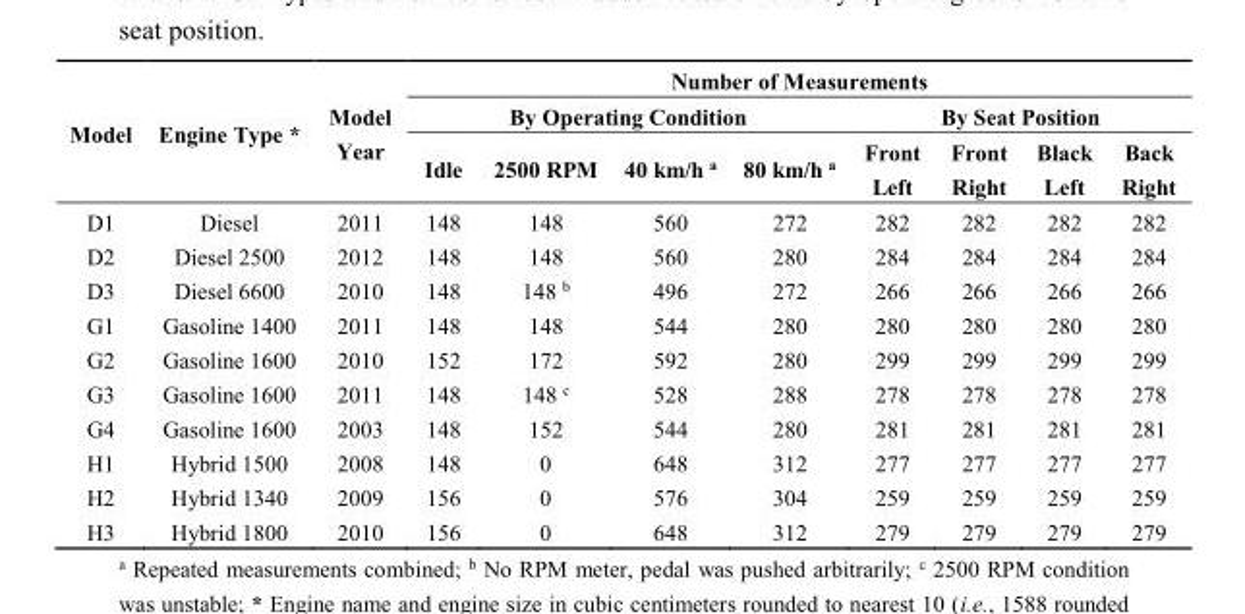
<table><thead><tr><td rowspan="3">Model</td><td rowspan="3">Engine Type *</td><td rowspan="3">Model Year</td><td colspan="8">Number of Measurements</td></tr><tr><td colspan="4">By Operating Condition</td><td colspan="4">By Seat Position</td></tr><tr><td>Idle</td><td>2500 RPM</td><td>40 km/h <sup>a</sup></td><td>80 km/h <sup>a</sup></td><td>Front Left</td><td>Front Right</td><td>Black Left</td><td>Back Right</td></tr></thead><tbody><tr><td>D1</td><td>Diesel</td><td>2011</td><td>148</td><td>148</td><td>560</td><td>272</td><td>282</td><td>282</td><td>282</td><td>282</td></tr><tr><td>D2</td><td>Diesel 2500</td><td>2012</td><td>148</td><td>148</td><td>560</td><td>280</td><td>284</td><td>284</td><td>284</td><td>284</td></tr><tr><td>D3</td><td>Diesel 6600</td><td>2010</td><td>148</td><td>148 <sup>b</sup></td><td>496</td><td>272</td><td>266</td><td>266</td><td>266</td><td>266</td></tr><tr><td>G1</td><td>Gasoline 1400</td><td>2011</td><td>148</td><td>148</td><td>544</td><td>280</td><td>280</td><td>280</td><td>280</td><td>280</td></tr><tr><td>G2</td><td>Gasoline 1600</td><td>2010</td><td>152</td><td>172</td><td>592</td><td>280</td><td>299</td><td>299</td><td>299</td><td>299</td></tr><tr><td>G3</td><td>Gasoline 1600</td><td>2011</td><td>148</td><td>148 <sup>c</sup></td><td>528</td><td>288</td><td>278</td><td>278</td><td>278</td><td>278</td></tr><tr><td>G4</td><td>Gasoline 1600</td><td>2003</td><td>148</td><td>152</td><td>544</td><td>280</td><td>281</td><td>281</td><td>281</td><td>281</td></tr><tr><td>H1</td><td>Hybrid 1500</td><td>2008</td><td>148</td><td>0</td><td>648</td><td>312</td><td>277</td><td>277</td><td>277</td><td>277</td></tr><tr><td>H2</td><td>Hybrid 1340</td><td>2009</td><td>156</td><td>0</td><td>576</td><td>304</td><td>259</td><td>259</td><td>259</td><td>259</td></tr><tr><td>H3</td><td>Hybrid 1800</td><td>2010</td><td>156</td><td>0</td><td>648</td><td>312</td><td>279</td><td>279</td><td>279</td><td>279</td></tr></tbody></table>